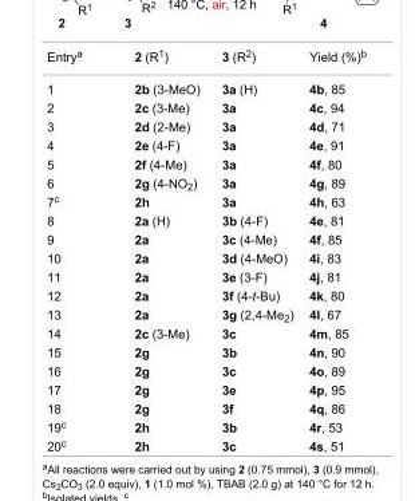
<table><tbody><tr><td>Entry<sup>a</sup></td><td>2 (R<sup>1</sup>)</td><td>3 (R<sup>2</sup>)</td><td>Yield (%)<sup>b</sup></td></tr><tr><td>1</td><td>2b (3-MeO)</td><td>3a (H)</td><td>4b, 85</td></tr><tr><td>2</td><td>2c (3-Me)</td><td>3a</td><td>4c, 94</td></tr><tr><td>3</td><td>2d (2-Me)</td><td>3a</td><td>4d, 71</td></tr><tr><td>4</td><td>2e (4-F)</td><td>3a</td><td>4e, 91</td></tr><tr><td>5</td><td>2f (4-Me)</td><td>3a</td><td>4f, 80</td></tr><tr><td>6</td><td>2g (4-NO<sub>2</sub>)</td><td>3a</td><td>4g, 89</td></tr><tr><td>7<sup>c</sup></td><td>2h</td><td>3a</td><td>4h, 63</td></tr><tr><td>8</td><td>2a (H)</td><td>3b (4-F)</td><td>4e, 81</td></tr><tr><td>9</td><td>2a</td><td>3c (4-Me)</td><td>4f, 85</td></tr><tr><td>10</td><td>2a</td><td>3d (4-MeO)</td><td>4i, 83</td></tr><tr><td>11</td><td>2a</td><td>3e (3-F)</td><td>4j, 81</td></tr><tr><td>12</td><td>2a</td><td>3f (4-t-Bu)</td><td>4k, 80</td></tr><tr><td>13</td><td>2a</td><td>3g (2,4-Me<sub>2</sub>)</td><td>4l, 67</td></tr><tr><td>14</td><td>2c (3-Me)</td><td>3c</td><td>4m, 85</td></tr><tr><td>15</td><td>2g</td><td>3b</td><td>4n, 90</td></tr><tr><td>16</td><td>2g</td><td>3c</td><td>4o, 89</td></tr><tr><td>17</td><td>2g</td><td>3e</td><td>4p, 95</td></tr><tr><td>18</td><td>2g</td><td>3f</td><td>4q, 86</td></tr><tr><td>19<sup>c</sup></td><td>2h</td><td>3b</td><td>4r, 53</td></tr><tr><td>20<sup>c</sup></td><td>2h</td><td>3c</td><td>4s, 51</td></tr></tbody></table>